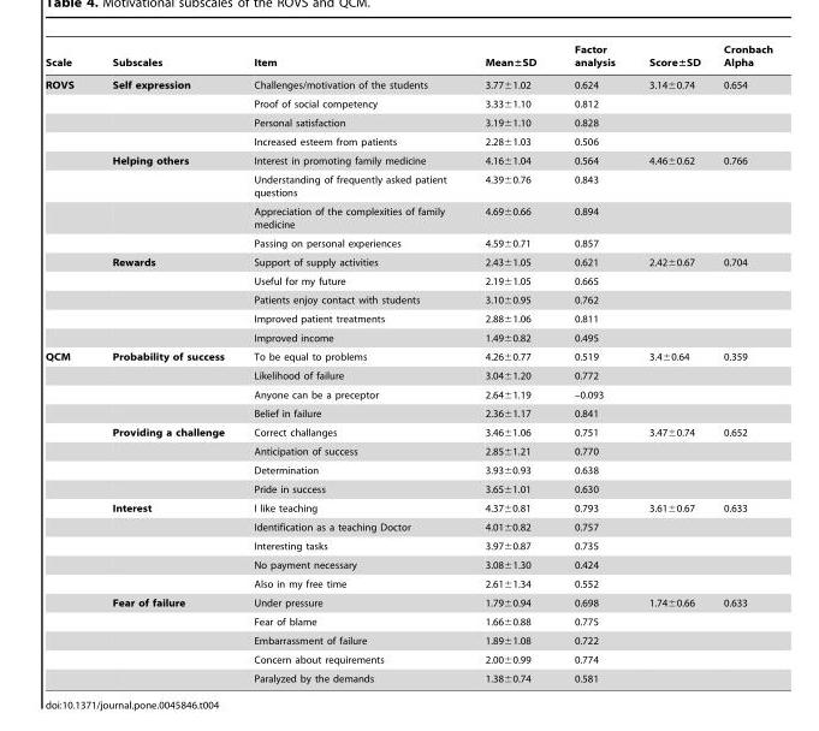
<table><thead><tr><td>Scale</td><td>Subscales</td><td>Item</td><td>Mean±SD</td><td>Factor analysis</td><td>Score±SD</td><td>Cronbach Alpha</td></tr></thead><tbody><tr><td rowspan="13">ROVS</td><td>Self expression</td><td>Challenges/motivation of the students</td><td>3.77±1.02</td><td>0.624</td><td>3.14±0.74</td><td>0.654</td></tr><tr><td></td><td>Proof of social competency</td><td>3.33±1.10</td><td>0.812</td><td></td><td></td></tr><tr><td></td><td>Personal satisfaction</td><td>3.19±1.10</td><td>0.828</td><td></td><td></td></tr><tr><td></td><td>Increased esteem from patients</td><td>2.28±1.03</td><td>0.506</td><td></td><td></td></tr><tr><td>Helping others</td><td>Interest in promoting family medicine</td><td>4.16±1.04</td><td>0.564</td><td>4.46±0.62</td><td>0.766</td></tr><tr><td></td><td>Understanding of frequently asked patient questions</td><td>4.39±0.76</td><td>0.843</td><td></td><td></td></tr><tr><td></td><td>Appreciation of the complexities of family medicine</td><td>4.69±0.66</td><td>0.894</td><td></td><td></td></tr><tr><td></td><td>Passing on personal experiences</td><td>4.59±0.71</td><td>0.857</td><td></td><td></td></tr><tr><td>Rewards</td><td>Support of supply activities</td><td>2.43±1.05</td><td>0.621</td><td>2.42±0.67</td><td>0.704</td></tr><tr><td></td><td>Useful for my future</td><td>2.19±1.05</td><td>0.665</td><td></td><td></td></tr><tr><td></td><td>Patients enjoy contact with students</td><td>3.10±0.95</td><td>0.762</td><td></td><td></td></tr><tr><td></td><td>Improved patient treatments</td><td>2.88±1.06</td><td>0.811</td><td></td><td></td></tr><tr><td></td><td>Improved income</td><td>1.49±0.82</td><td>0.495</td><td></td><td></td></tr><tr><td rowspan="18">QCM</td><td>Probability of success</td><td>To be equal to problems</td><td>4.26±0.77</td><td>0.519</td><td>3.4±0.64</td><td>0.359</td></tr><tr><td></td><td>Likelihood of failure</td><td>3.04±1.20</td><td>0.772</td><td></td><td></td></tr><tr><td></td><td>Anyone can be a preceptor</td><td>2.64±1.19</td><td>–0.093</td><td></td><td></td></tr><tr><td></td><td>Belief in failure</td><td>2.36±1.17</td><td>0.841</td><td></td><td></td></tr><tr><td>Providing a challenge</td><td>Correct challanges</td><td>3.46±1.06</td><td>0.751</td><td>3.47±0.74</td><td>0.652</td></tr><tr><td></td><td>Anticipation of success</td><td>2.85±1.21</td><td>0.770</td><td></td><td></td></tr><tr><td></td><td>Determination</td><td>3.93±0.93</td><td>0.638</td><td></td><td></td></tr><tr><td></td><td>Pride in success</td><td>3.65±1.01</td><td>0.630</td><td></td><td></td></tr><tr><td>Interest</td><td>I like teaching</td><td>4.37±0.81</td><td>0.793</td><td>3.61±0.67</td><td>0.633</td></tr><tr><td></td><td>Identification as a teaching Doctor</td><td>4.01±0.82</td><td>0.757</td><td></td><td></td></tr><tr><td></td><td>Interesting tasks</td><td>3.97±0.87</td><td>0.735</td><td></td><td></td></tr><tr><td></td><td>No payment necessary</td><td>3.08±1.30</td><td>0.424</td><td></td><td></td></tr><tr><td></td><td>Also in my free time</td><td>2.61±1.34</td><td>0.552</td><td></td><td></td></tr><tr><td>Fear of failure</td><td>Under pressure</td><td>1.79±0.94</td><td>0.698</td><td>1.74±0.66</td><td>0.633</td></tr><tr><td></td><td>Fear of blame</td><td>1.66±0.88</td><td>0.775</td><td></td><td></td></tr><tr><td></td><td>Embarrassment of failure</td><td>1.89±1.08</td><td>0.722</td><td></td><td></td></tr><tr><td></td><td>Concern about requirements</td><td>2.00±0.99</td><td>0.774</td><td></td><td></td></tr><tr><td></td><td>Paralyzed by the demands</td><td>1.38±0.74</td><td>0.581</td><td></td><td></td></tr></tbody></table>